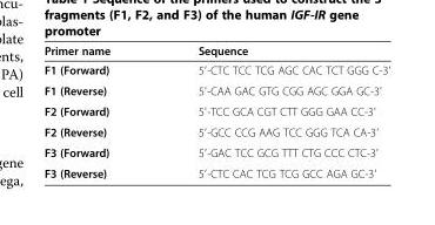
<table><thead><tr><td>Primer name</td><td>Sequence</td></tr></thead><tbody><tr><td>F1 (Forward)</td><td>5′-CTC TCC TCG AGC CAC TCT GGG C-3′</td></tr><tr><td>F1 (Reverse)</td><td>5′-CAA GAC GTG CGG AGC GGA GC-3′</td></tr><tr><td>F2 (Forward)</td><td>5′-TCC GCA CGT CTT GGG GAA CC-3′</td></tr><tr><td>F2 (Reverse)</td><td>5′-GCC CCG AAG TCC GGG TCA CA-3′</td></tr><tr><td>F3 (Forward)</td><td>5′-GAC TCC GCG TTT CTG CCC CTC-3′</td></tr><tr><td>F3 (Reverse)</td><td>5′-CTC CAC TCG TCG GCC AGA GC-3′</td></tr></tbody></table>